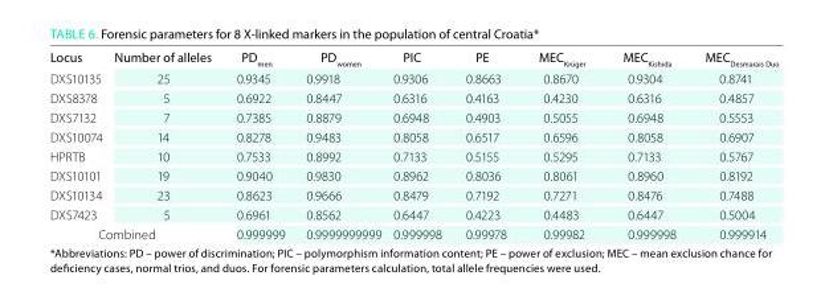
<table><thead><tr><td>locus</td><td>Number of alleles</td><td>PD<sub>men</sub></td><td>PD<sub>women</sub></td><td>PiC</td><td>Pe</td><td>MeC<sub>Krüger</sub></td><td>MeC<sub>Kishida</sub></td><td>MeC<sub>Desmarais Duo</sub></td></tr></thead><tbody><tr><td>DXS10135</td><td>25</td><td>0.9345</td><td>0.9918</td><td>0.9306</td><td>0.8663</td><td>0.8670</td><td>0.9304</td><td>0.8741</td></tr><tr><td>DXS8378</td><td>5</td><td>0.6922</td><td>0.8447</td><td>0.6316</td><td>0.4163</td><td>0.4230</td><td>0.6316</td><td>0.4857</td></tr><tr><td>DXS7132</td><td>7</td><td>0.7385</td><td>0.8879</td><td>0.6948</td><td>0.4903</td><td>0.5055</td><td>0.6948</td><td>0.5553</td></tr><tr><td>DXS10074</td><td>14</td><td>0.8278</td><td>0.9483</td><td>0.8058</td><td>0.6517</td><td>0.6596</td><td>0.8058</td><td>0.6907</td></tr><tr><td>HPRTB</td><td>10</td><td>0.7533</td><td>0.8992</td><td>0.7133</td><td>0.5155</td><td>0.5295</td><td>0.7133</td><td>0.5767</td></tr><tr><td>DXS10101</td><td>19</td><td>0.9040</td><td>0.9830</td><td>0.8962</td><td>0.8036</td><td>0.8061</td><td>0.8960</td><td>0.8192</td></tr><tr><td>DXS10134</td><td>23</td><td>0.8623</td><td>0.9666</td><td>0.8479</td><td>0.7192</td><td>0.7271</td><td>0.8476</td><td>0.7488</td></tr><tr><td>DXS7423</td><td>5</td><td>0.6961</td><td>0.8562</td><td>0.6447</td><td>0.4223</td><td>0.4483</td><td>0.6447</td><td>0.5004</td></tr><tr><td colspan="2">Combined</td><td>0.999999</td><td>0.9999999999</td><td>0.999998</td><td>0.99978</td><td>0.99982</td><td>0.999998</td><td>0.999914</td></tr></tbody></table>